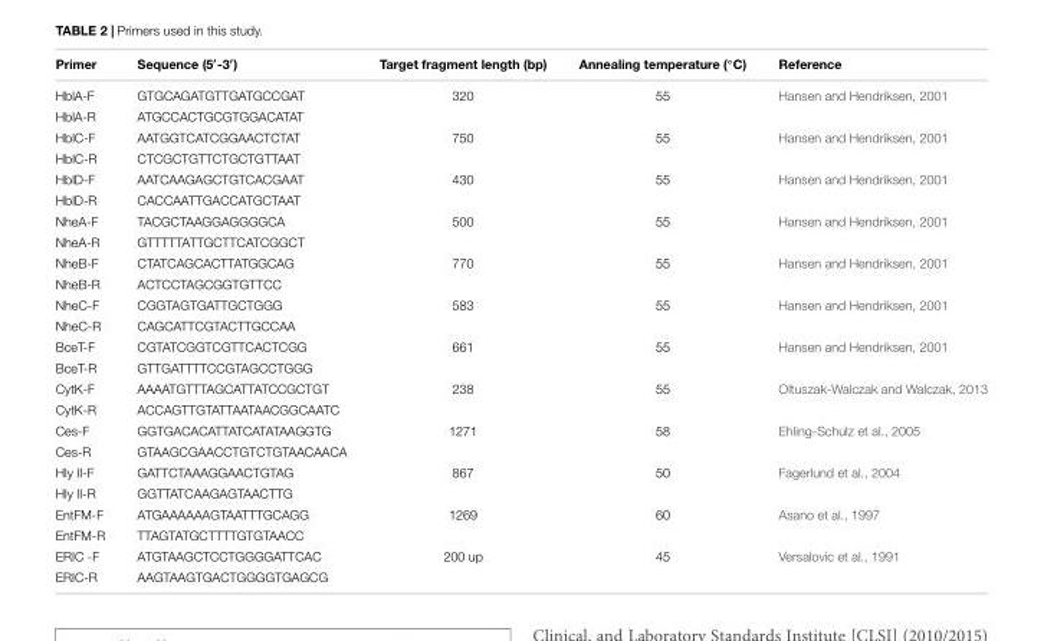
<table><thead><tr><td>Primer</td><td>Sequence (5′-3′)</td><td>Target fragment length (bp)</td><td>Annealing temperature (◦C)</td><td>Reference</td></tr></thead><tbody><tr><td>HblA-F</td><td>GTGCAGATGTTGATGCCGAT</td><td>320</td><td>55</td><td>Hansen and Hendriksen, 2001</td></tr><tr><td>HblA-R</td><td>ATGCCACTGCGTGGACATAT</td><td></td><td></td><td></td></tr><tr><td>HblC-F</td><td>AATGGTCATCGGAACTCTAT</td><td>750</td><td>55</td><td>Hansen and Hendriksen, 2001</td></tr><tr><td>HblC-R</td><td>CTCGCTGTTCTGCTGTTAAT</td><td></td><td></td><td></td></tr><tr><td>HblD-F</td><td>AATCAAGAGCTGTCACGAAT</td><td>430</td><td>55</td><td>Hansen and Hendriksen, 2001</td></tr><tr><td>HblD-R</td><td>CACCAATTGACCATGCTAAT</td><td></td><td></td><td></td></tr><tr><td>NheA-F</td><td>TACGCTAAGGAGGGGCA</td><td>500</td><td>55</td><td>Hansen and Hendriksen, 2001</td></tr><tr><td>NheA-R</td><td>GTTTTTATTGCTTCATCGGCT</td><td></td><td></td><td></td></tr><tr><td>NheB-F</td><td>CTATCAGCACTTATGGCAG</td><td>770</td><td>55</td><td>Hansen and Hendriksen, 2001</td></tr><tr><td>NheB-R</td><td>ACTCCTAGCGGTGTTCC</td><td></td><td></td><td></td></tr><tr><td>NheC-F</td><td>CGGTAGTGATTGCTGGG</td><td>583</td><td>55</td><td>Hansen and Hendriksen, 2001</td></tr><tr><td>NheC-R</td><td>CAGCATTCGTACTTGCCAA</td><td></td><td></td><td></td></tr><tr><td>BceT-F</td><td>CGTATCGGTCGTTCACTCGG</td><td>661</td><td>55</td><td>Hansen and Hendriksen, 2001</td></tr><tr><td>BceT-R</td><td>GTTGATTTTCCGTAGCCTGGG</td><td></td><td></td><td></td></tr><tr><td>CytK-F</td><td>AAAATGTTTAGCATTATCCGCTGT</td><td>238</td><td>55</td><td>Oltuszak-Walczak and Walczak, 2013</td></tr><tr><td>CytK-R</td><td>ACCAGTTGTATTAATAACGGCAATC</td><td></td><td></td><td></td></tr><tr><td>Ces-F</td><td>GGTGACACATTATCATATAAGGTG</td><td>1271</td><td>58</td><td>Ehling-Schulz et al., 2005</td></tr><tr><td>Ces-R</td><td>GTAAGCGAACCTGTCTGTAACAACA</td><td></td><td></td><td></td></tr><tr><td>Hly II-F</td><td>GATTCTAAAGGAACTGTAG</td><td>867</td><td>50</td><td>Fagerlund et al., 2004</td></tr><tr><td>Hly II-R</td><td>GGTTATCAAGAGTAACTTG</td><td></td><td></td><td></td></tr><tr><td>EntFM-F</td><td>ATGAAAAAAGTAATTTGCAGG</td><td>1269</td><td>60</td><td>Asano et al., 1997</td></tr><tr><td>EntFM-R</td><td>TTAGTATGCTTTTGTGTAACC</td><td></td><td></td><td></td></tr><tr><td>ERIC -F</td><td>ATGTAAGCTCCTGGGGATTCAC</td><td>200 up</td><td>45</td><td>Versalovic et al., 1991</td></tr><tr><td>ERIC-R</td><td>AAGTAAGTGACTGGGGTGAGCG</td><td></td><td></td><td></td></tr></tbody></table>